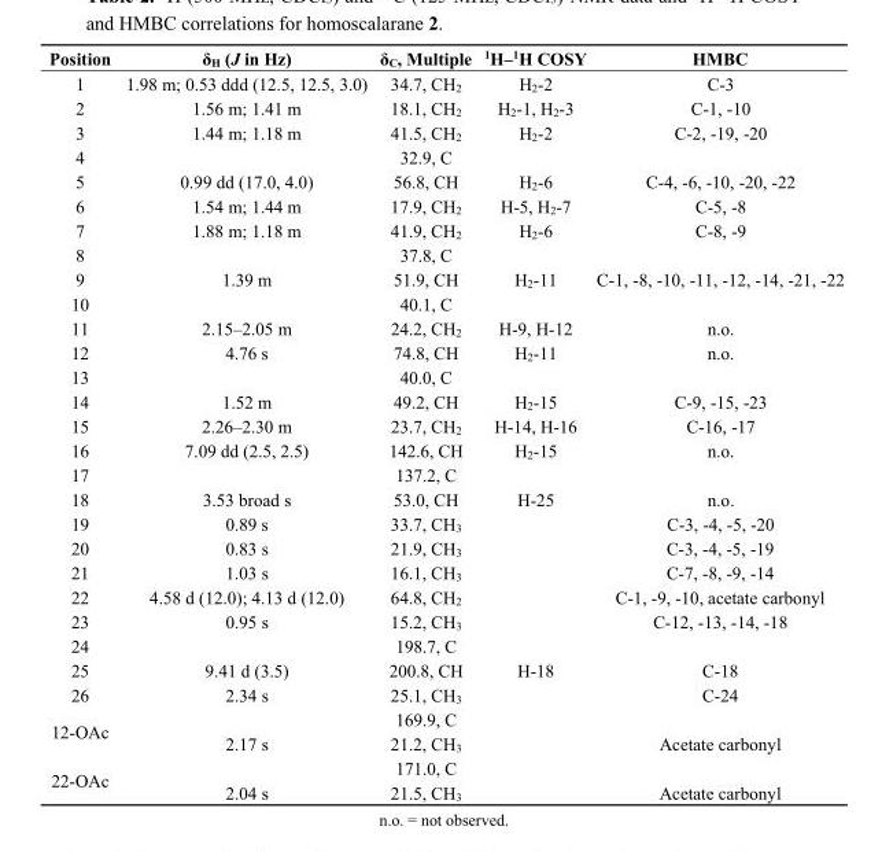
<table><thead><tr><td>Position</td><td>δ<sub>H</sub> (J in Hz)</td><td>δ<sub>C</sub>, Multiple</td><td><sup>1</sup>H–<sup>1</sup>H COSY</td><td>HMBC</td></tr></thead><tbody><tr><td>1</td><td>1.98 m; 0.53 ddd (12.5, 12.5, 3.0)</td><td>34.7, CH<sub>2</sub></td><td>H<sub>2</sub>-2</td><td>C-3</td></tr><tr><td>2</td><td>1.56 m; 1.41 m</td><td>18.1, CH<sub>2</sub></td><td>H<sub>2</sub>-1, H<sub>2</sub>-3</td><td>C-1, -10</td></tr><tr><td>3</td><td>1.44 m; 1.18 m</td><td>41.5, CH<sub>2</sub></td><td>H<sub>2</sub>-2</td><td>C-2, -19, -20</td></tr><tr><td>4</td><td></td><td>32.9, C</td><td></td><td></td></tr><tr><td>5</td><td>0.99 dd (17.0, 4.0)</td><td>56.8, CH</td><td>H<sub>2</sub>-6</td><td>C-4, -6, -10, -20, -22</td></tr><tr><td>6</td><td>1.54 m; 1.44 m</td><td>17.9, CH<sub>2</sub></td><td>H-5, H<sub>2</sub>-7</td><td>C-5, -8</td></tr><tr><td>7</td><td>1.88 m; 1.18 m</td><td>41.9, CH<sub>2</sub></td><td>H<sub>2</sub>-6</td><td>C-8, -9</td></tr><tr><td>8</td><td></td><td>37.8, C</td><td></td><td></td></tr><tr><td>9</td><td>1.39 m</td><td>51.9, CH</td><td>H<sub>2</sub>-11</td><td>C-1, -8, -10, -11, -12, -14, -21, -22</td></tr><tr><td>10</td><td></td><td>40.1, C</td><td></td><td></td></tr><tr><td>11</td><td>2.15–2.05 m</td><td>24.2, CH<sub>2</sub></td><td>H-9, H-12</td><td>n.o.</td></tr><tr><td>12</td><td>4.76 s</td><td>74.8, CH</td><td>H<sub>2</sub>-11</td><td>n.o.</td></tr><tr><td>13</td><td></td><td>40.0, C</td><td></td><td></td></tr><tr><td>14</td><td>1.52 m</td><td>49.2, CH</td><td>H<sub>2</sub>-15</td><td>C-9, -15, -23</td></tr><tr><td>15</td><td>2.26–2.30 m</td><td>23.7, CH<sub>2</sub></td><td>H-14, H-16</td><td>C-16, -17</td></tr><tr><td>16</td><td>7.09 dd (2.5, 2.5)</td><td>142.6, CH</td><td>H<sub>2</sub>-15</td><td>n.o.</td></tr><tr><td>17</td><td></td><td>137.2, C</td><td></td><td></td></tr><tr><td>18</td><td>3.53 broad s</td><td>53.0, CH</td><td>H-25</td><td>n.o.</td></tr><tr><td>19</td><td>0.89 s</td><td>33.7, CH<sub>3</sub></td><td></td><td>C-3, -4, -5, -20</td></tr><tr><td>20</td><td>0.83 s</td><td>21.9, CH<sub>3</sub></td><td></td><td>C-3, -4, -5, -19</td></tr><tr><td>21</td><td>1.03 s</td><td>16.1, CH<sub>3</sub></td><td></td><td>C-7, -8, -9, -14</td></tr><tr><td>22</td><td>4.58 d (12.0); 4.13 d (12.0)</td><td>64.8, CH<sub>2</sub></td><td></td><td>C-1, -9, -10, acetate carbonyl</td></tr><tr><td>23</td><td>0.95 s</td><td>15.2, CH<sub>3</sub></td><td></td><td>C-12, -13, -14, -18</td></tr><tr><td>24</td><td></td><td>198.7, C</td><td></td><td></td></tr><tr><td>25</td><td>9.41 d (3.5)</td><td>200.8, CH</td><td>H-18</td><td>C-18</td></tr><tr><td>26</td><td>2.34 s</td><td>25.1, CH<sub>3</sub></td><td></td><td>C-24</td></tr><tr><td rowspan="2">12-OAc</td><td></td><td>169.9, C</td><td></td><td></td></tr><tr><td>2.17 s</td><td>21.2, CH<sub>3</sub></td><td></td><td>Acetate carbonyl</td></tr><tr><td rowspan="2">22-OAc</td><td></td><td>171.0, C</td><td></td><td></td></tr><tr><td>2.04 s</td><td>21.5, CH<sub>3</sub></td><td></td><td>Acetate carbonyl</td></tr></tbody></table>